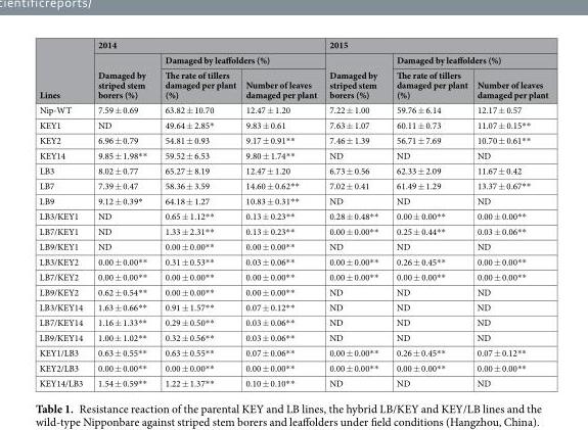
<table><thead><tr><td rowspan="3">Lines</td><td colspan="3">2014</td><td colspan="3">2015</td></tr><tr><td rowspan="2">Damaged by striped stem borers (%)</td><td colspan="2">Damaged by leaffolders (%)</td><td rowspan="2">Damaged by striped stem borers (%)</td><td colspan="2">Damaged by leaffolders (%)</td></tr><tr><td>The rate of tillers damaged per plant (%)</td><td>Number of leaves damaged per plant</td><td>The rate of tillers damaged per plant (%)</td><td>Number of leaves damaged per plant</td></tr></thead><tbody><tr><td>Nip-WT</td><td>7.59 ± 0.69</td><td>63.82 ± 10.70</td><td>12.47 ± 1.20</td><td>7.22 ± 1.00</td><td>59.76 ± 6.14</td><td>12.17 ± 0.57</td></tr><tr><td>KEY1</td><td>ND</td><td>49.64 ± 2.85*</td><td>9.83 ± 0.61</td><td>7.63 ± 1.07</td><td>60.11 ± 0.73</td><td>11.07 ± 0.15**</td></tr><tr><td>KEY2</td><td>6.96 ± 0.79</td><td>54.81 ± 0.93</td><td>9.17 ± 0.91**</td><td>7.46 ± 1.39</td><td>56.71 ± 7.69</td><td>10.70 ± 0.61**</td></tr><tr><td>KEY14</td><td>9.85 ± 1.98**</td><td>59.52 ± 6.53</td><td>9.80 ± 1.74**</td><td>ND</td><td>ND</td><td>ND</td></tr><tr><td>LB3</td><td>8.02 ± 0.77</td><td>65.27 ± 8.19</td><td>12.47 ± 1.20</td><td>6.73 ± 0.56</td><td>62.33 ± 2.09</td><td>11.67 ± 0.42</td></tr><tr><td>LB7</td><td>7.39 ± 0.47</td><td>58.36 ± 3.59</td><td>14.60 ± 0.62**</td><td>7.02 ± 0.41</td><td>61.49 ± 1.29</td><td>13.37 ± 0.67**</td></tr><tr><td>LB9</td><td>9.12 ± 0.39*</td><td>64.18 ± 1.27</td><td>10.83 ± 0.31**</td><td>ND</td><td>ND</td><td>ND</td></tr><tr><td>LB3/KEY1</td><td>ND</td><td>0.65 ± 1.12**</td><td>0.13 ± 0.23**</td><td>0.28 ± 0.48**</td><td>0.00 ± 0.00**</td><td>0.00 ± 0.00**</td></tr><tr><td>LB7/KEY1</td><td>ND</td><td>1.33 ± 2.31**</td><td>0.13 ± 0.23**</td><td>0.00 ± 0.00**</td><td>0.25 ± 0.44**</td><td>0.03 ± 0.06**</td></tr><tr><td>LB9/KEY1</td><td>ND</td><td>0.00 ± 0.00**</td><td>0.00 ± 0.00**</td><td>ND</td><td>ND</td><td>ND</td></tr><tr><td>LB3/KEY2</td><td>0.00 ± 0.00**</td><td>0.31 ± 0.53**</td><td>0.03 ± 0.06**</td><td>0.00 ± 0.00**</td><td>0.26 ± 0.45**</td><td>0.00 ± 0.00**</td></tr><tr><td>LB7/KEY2</td><td>0.00 ± 0.00**</td><td>0.00 ± 0.00**</td><td>0.00 ± 0.00**</td><td>0.00 ± 0.00**</td><td>0.00 ± 0.00**</td><td>0.00 ± 0.00**</td></tr><tr><td>LB9/KEY2</td><td>0.62 ± 0.54**</td><td>0.00 ± 0.00**</td><td>0.00 ± 0.00**</td><td>ND</td><td>ND</td><td>ND</td></tr><tr><td>LB3/KEY14</td><td>1.63 ± 0.66**</td><td>0.91 ± 1.57**</td><td>0.07 ± 0.12**</td><td>ND</td><td>ND</td><td>ND</td></tr><tr><td>LB7/KEY14</td><td>1.16 ± 1.33**</td><td>0.29 ± 0.50**</td><td>0.03 ± 0.06**</td><td>ND</td><td>ND</td><td>ND</td></tr><tr><td>LB9/KEY14</td><td>1.00 ± 1.02**</td><td>0.32 ± 0.56**</td><td>0.03 ± 0.06**</td><td>ND</td><td>ND</td><td>ND</td></tr><tr><td>KEY1/LB3</td><td>0.63 ± 0.55**</td><td>0.63 ± 0.55**</td><td>0.07 ± 0.06**</td><td>0.00 ± 0.00**</td><td>0.26 ± 0.45**</td><td>0.07 ± 0.12**</td></tr><tr><td>KEY2/LB3</td><td>0.00 ± 0.00**</td><td>0.00 ± 0.00**</td><td>0.00 ± 0.00**</td><td>0.00 ± 0.00**</td><td>0.00 ± 0.00**</td><td>0.00 ± 0.00**</td></tr><tr><td>KEY14/LB3</td><td>1.54 ± 0.59**</td><td>1.22 ± 1.37**</td><td>0.10 ± 0.10**</td><td>ND</td><td>ND</td><td>ND</td></tr></tbody></table>